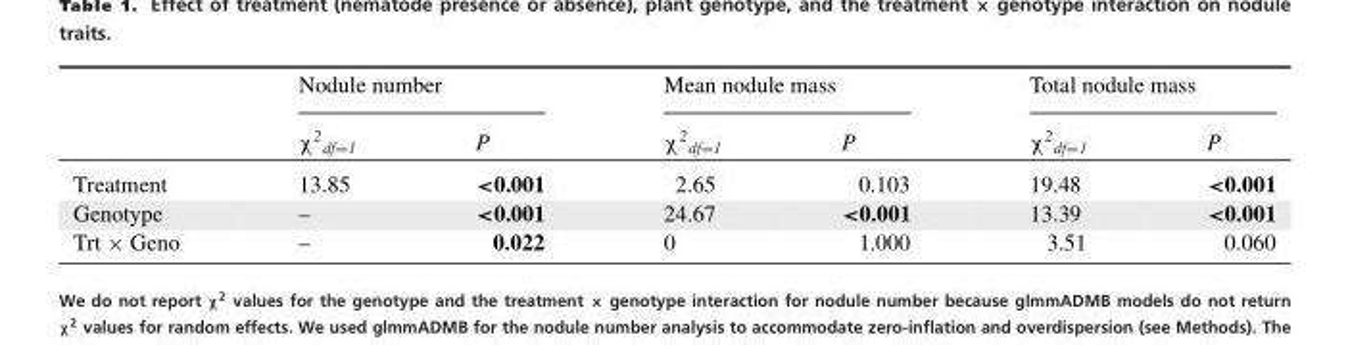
<table><thead><tr><td rowspan="2"></td><td colspan="2">Nodule number</td><td colspan="2">Mean nodule mass</td><td colspan="2">Total nodule mass</td></tr><tr><td>χ<sup>2</sup><sub>df=1</sub></td><td>P</td><td>χ<sup>2</sup><sub>df=1</sub></td><td>P</td><td>χ<sup>2</sup><sub>df=1</sub></td><td>P</td></tr></thead><tbody><tr><td>Treatment</td><td>13.85</td><td>&lt;0.001</td><td>2.65</td><td>0.103</td><td>19.48</td><td>&lt;0.001</td></tr><tr><td>Genotype</td><td>–</td><td>&lt;0.001</td><td>24.67</td><td>&lt;0.001</td><td>13.39</td><td>&lt;0.001</td></tr><tr><td>Trt × Geno</td><td>–</td><td>0.022</td><td>0</td><td>1.000</td><td>3.51</td><td>0.060</td></tr></tbody></table>